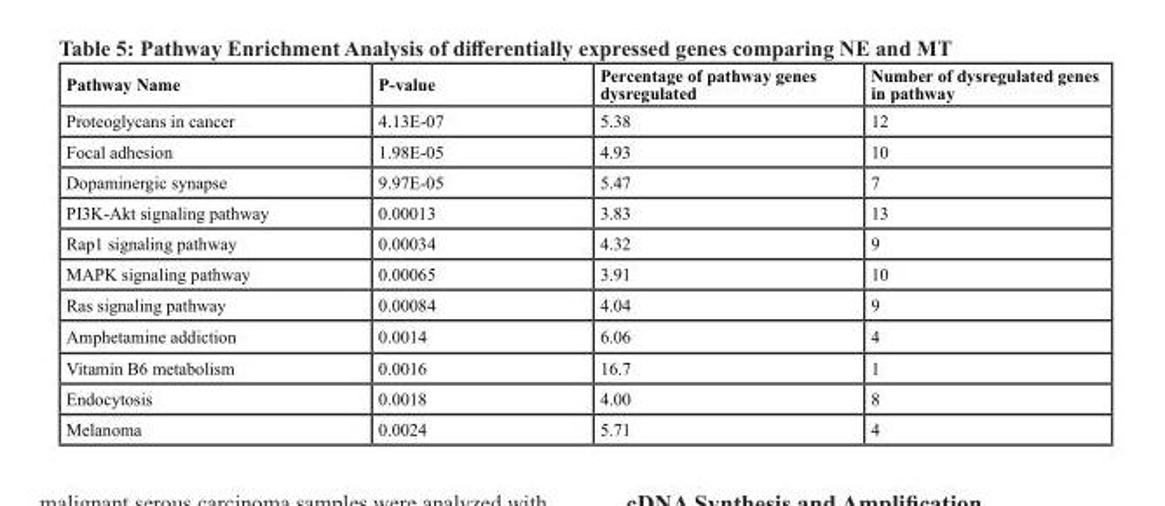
<table><thead><tr><td>Pathway Name</td><td>P-value</td><td>Percentage of pathway genes dysregulated</td><td>Number of dysregulated genes in pathway</td></tr></thead><tbody><tr><td>Proteoglycans in cancer</td><td>4.13E-07</td><td>5.38</td><td>12</td></tr><tr><td>Focal adhesion</td><td>1.98E-05</td><td>4.93</td><td>10</td></tr><tr><td>Dopaminergic synapse</td><td>9.97E-05</td><td>5.47</td><td>7</td></tr><tr><td>PI3K-Akt signaling pathway</td><td>0.00013</td><td>3.83</td><td>13</td></tr><tr><td>Rap1 signaling pathway</td><td>0.00034</td><td>4.32</td><td>9</td></tr><tr><td>MAPK signaling pathway</td><td>0.00065</td><td>3.91</td><td>10</td></tr><tr><td>Ras signaling pathway</td><td>0.00084</td><td>4.04</td><td>9</td></tr><tr><td>Amphetamine addiction</td><td>0.0014</td><td>6.06</td><td>4</td></tr><tr><td>Vitamin B6 metabolism</td><td>0.0016</td><td>16.7</td><td>1</td></tr><tr><td>Endocytosis</td><td>0.0018</td><td>4.00</td><td>8</td></tr><tr><td>Melanoma</td><td>0.0024</td><td>5.71</td><td>4</td></tr></tbody></table>